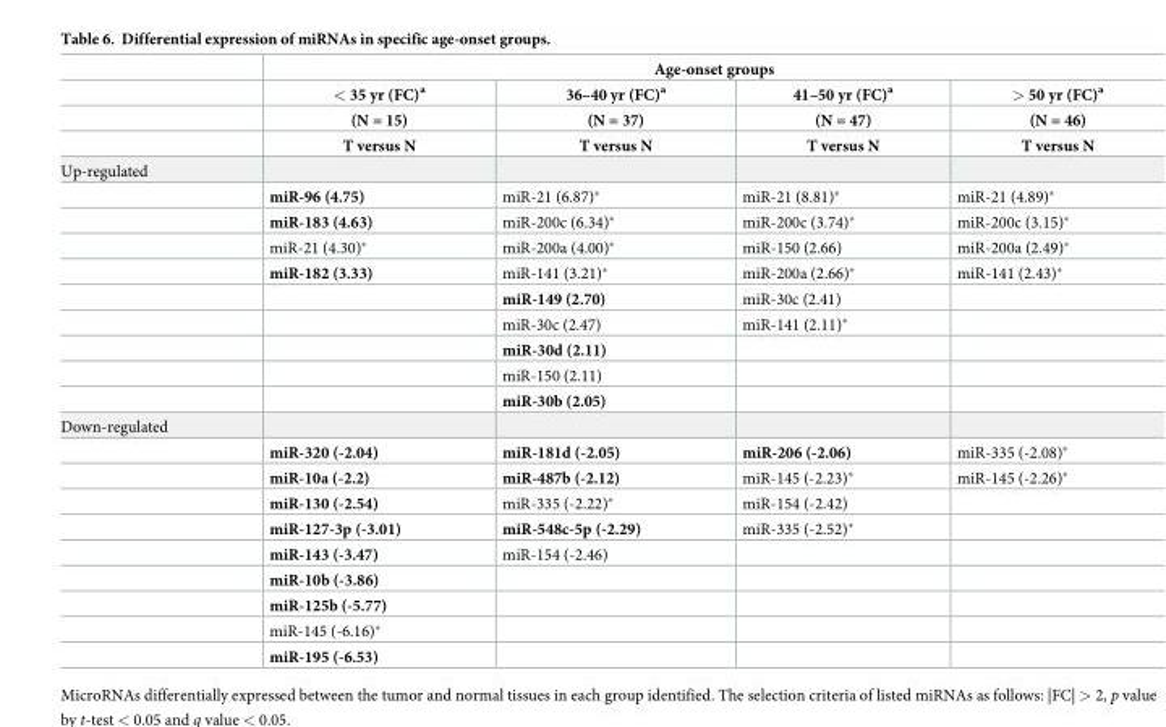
<table><thead><tr><td rowspan="4"></td><td colspan="4">Age-onset groups</td></tr><tr><td rowspan="3">&lt; 35 yr (FC)<sup>a</sup> (N = 15) T versus N</td><td rowspan="3">36–40 yr (FC)<sup>a</sup> (N = 37) T versus N</td><td rowspan="3">41–50 yr (FC)<sup>a</sup> (N = 47) T versus N</td><td rowspan="3">&gt; 50 yr (FC)<sup>a</sup> (N = 46) T versus N</td></tr><tr></tr><tr></tr></thead><tbody><tr><td colspan="5">Up-regulated</td></tr><tr><td></td><td>miR-96 (4.75)</td><td>miR-21 (6.87)*</td><td>miR-21 (8.81)*</td><td>miR-21 (4.89)*</td></tr><tr><td></td><td>miR-183 (4.63)</td><td>miR-200c (6.34)*</td><td>miR-200c (3.74)*</td><td>miR-200c (3.15)*</td></tr><tr><td></td><td>miR-21 (4.30)*</td><td>miR-200a (4.00)*</td><td>miR-150 (2.66)</td><td>miR-200a (2.49)*</td></tr><tr><td></td><td>miR-182 (3.33)</td><td>miR-141 (3.21)*</td><td>miR-200a (2.66)*</td><td>miR-141 (2.43)*</td></tr><tr><td></td><td></td><td>miR-149 (2.70)</td><td>miR-30c (2.41)</td><td></td></tr><tr><td></td><td></td><td>miR-30c (2.47)</td><td>miR-141 (2.11)*</td><td></td></tr><tr><td></td><td></td><td>miR-30d (2.11)</td><td></td><td></td></tr><tr><td></td><td></td><td>miR-150 (2.11)</td><td></td><td></td></tr><tr><td></td><td></td><td>miR-30b (2.05)</td><td></td><td></td></tr><tr><td colspan="5">Down-regulated</td></tr><tr><td></td><td>miR-320 (-2.04)</td><td>miR-181d (-2.05)</td><td>miR-206 (-2.06)</td><td>miR-335 (-2.08)*</td></tr><tr><td></td><td>miR-10a (-2.2)</td><td>miR-487b (-2.12)</td><td>miR-145 (-2.23)*</td><td>miR-145 (-2.26)*</td></tr><tr><td></td><td>miR-130 (-2.54)</td><td>miR-335 (-2.22)*</td><td>miR-154 (-2.42)</td><td></td></tr><tr><td></td><td>miR-127-3p (-3.01)</td><td>miR-548c-5p (-2.29)</td><td>miR-335 (-2.52)*</td><td></td></tr><tr><td></td><td>miR-143 (-3.47)</td><td>miR-154 (-2.46)</td><td></td><td></td></tr><tr><td></td><td>miR-10b (-3.86)</td><td></td><td></td><td></td></tr><tr><td></td><td>miR-125b (-5.77)</td><td></td><td></td><td></td></tr><tr><td></td><td>miR-145 (-6.16)*</td><td></td><td></td><td></td></tr><tr><td></td><td>miR-195 (-6.53)</td><td></td><td></td><td></td></tr></tbody></table>